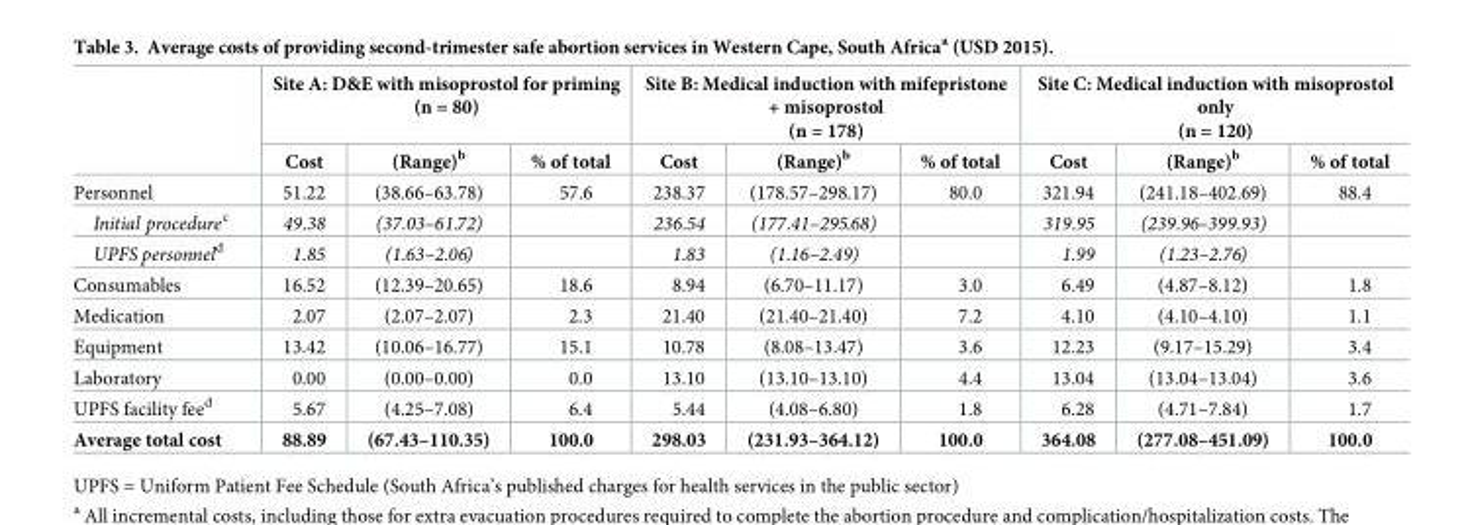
<table><thead><tr><td rowspan="2"></td><td colspan="3">Site A: D&amp;E with misoprostol for priming (n = 80)</td><td colspan="3">Site B: Medical induction with mifepristone + misoprostol (n = 178)</td><td colspan="3">Site C: Medical induction with misoprostol only (n = 120)</td></tr><tr><td>Cost</td><td>(Range)<sup>b</sup></td><td>% of total</td><td>Cost</td><td>(Range)<sup>b</sup></td><td>% of total</td><td>Cost</td><td>(Range)<sup>b</sup></td><td>% of total</td></tr></thead><tbody><tr><td>Personnel</td><td>51.22</td><td>(38.66–63.78)</td><td>57.6</td><td>238.37</td><td>(178.57–298.17)</td><td>80.0</td><td>321.94</td><td>(241.18–402.69)</td><td>88.4</td></tr><tr><td>Initial procedure<sup>c</sup></td><td>49.38</td><td>(37.03–61.72)</td><td></td><td>236.54</td><td>(177.41–295.68)</td><td></td><td>319.95</td><td>(239.96–399.93)</td><td></td></tr><tr><td>UPFS personnel<sup>d</sup></td><td>1.85</td><td>(1.63–2.06)</td><td></td><td>1.83</td><td>(1.16–2.49)</td><td></td><td>1.99</td><td>(1.23–2.76)</td><td></td></tr><tr><td>Consumables</td><td>16.52</td><td>(12.39–20.65)</td><td>18.6</td><td>8.94</td><td>(6.70–11.17)</td><td>3.0</td><td>6.49</td><td>(4.87–8.12)</td><td>1.8</td></tr><tr><td>Medication</td><td>2.07</td><td>(2.07–2.07)</td><td>2.3</td><td>21.40</td><td>(21.40–21.40)</td><td>7.2</td><td>4.10</td><td>(4.10–4.10)</td><td>1.1</td></tr><tr><td>Equipment</td><td>13.42</td><td>(10.06–16.77)</td><td>15.1</td><td>10.78</td><td>(8.08–13.47)</td><td>3.6</td><td>12.23</td><td>(9.17–15.29)</td><td>3.4</td></tr><tr><td>Laboratory</td><td>0.00</td><td>(0.00–0.00)</td><td>0.0</td><td>13.10</td><td>(13.10–13.10)</td><td>4.4</td><td>13.04</td><td>(13.04–13.04)</td><td>3.6</td></tr><tr><td>UPFS facility fee<sup>d</sup></td><td>5.67</td><td>(4.25–7.08)</td><td>6.4</td><td>5.44</td><td>(4.08–6.80)</td><td>1.8</td><td>6.28</td><td>(4.71–7.84)</td><td>1.7</td></tr><tr><td>Average total cost</td><td>88.89</td><td>(67.43–110.35)</td><td>100.0</td><td>298.03</td><td>(231.93–364.12)</td><td>100.0</td><td>364.08</td><td>(277.08–451.09)</td><td>100.0</td></tr></tbody></table>